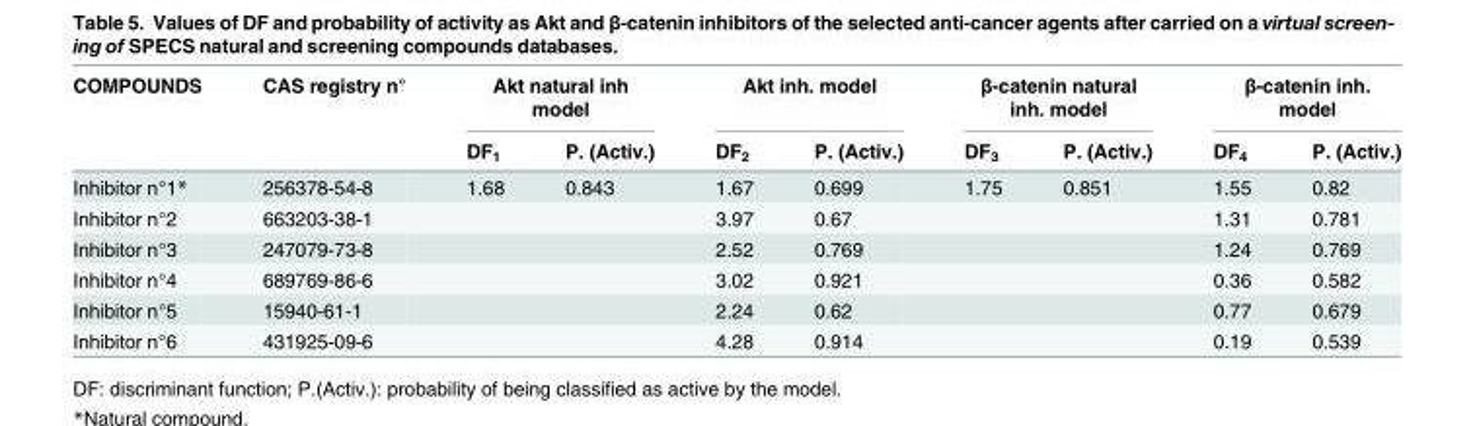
<table><thead><tr><td rowspan="2">COMPOUNDS</td><td rowspan="2">CAS registry n°</td><td colspan="2">Akt natural inh model</td><td colspan="2">Akt inh. model</td><td colspan="2">β-catenin natural inh. model</td><td colspan="2">β-catenin inh. model</td></tr><tr><td>DF<sub>1</sub></td><td>P. (Activ.)</td><td>DF<sub>2</sub></td><td>P. (Activ.)</td><td>DF<sub>3</sub></td><td>P. (Activ.)</td><td>DF<sub>4</sub></td><td>P. (Activ.)</td></tr></thead><tbody><tr><td>Inhibitor n°1*</td><td>256378-54-8</td><td>1.68</td><td>0.843</td><td>1.67</td><td>0.699</td><td>1.75</td><td>0.851</td><td>1.55</td><td>0.82</td></tr><tr><td>Inhibitor n°2</td><td>663203-38-1</td><td></td><td></td><td>3.97</td><td>0.67</td><td></td><td></td><td>1.31</td><td>0.781</td></tr><tr><td>Inhibitor n°3</td><td>247079-73-8</td><td></td><td></td><td>2.52</td><td>0.769</td><td></td><td></td><td>1.24</td><td>0.769</td></tr><tr><td>Inhibitor n°4</td><td>689769-86-6</td><td></td><td></td><td>3.02</td><td>0.921</td><td></td><td></td><td>0.36</td><td>0.582</td></tr><tr><td>Inhibitor n°5</td><td>15940-61-1</td><td></td><td></td><td>2.24</td><td>0.62</td><td></td><td></td><td>0.77</td><td>0.679</td></tr><tr><td>Inhibitor n°6</td><td>431925-09-6</td><td></td><td></td><td>4.28</td><td>0.914</td><td></td><td></td><td>0.19</td><td>0.539</td></tr></tbody></table>